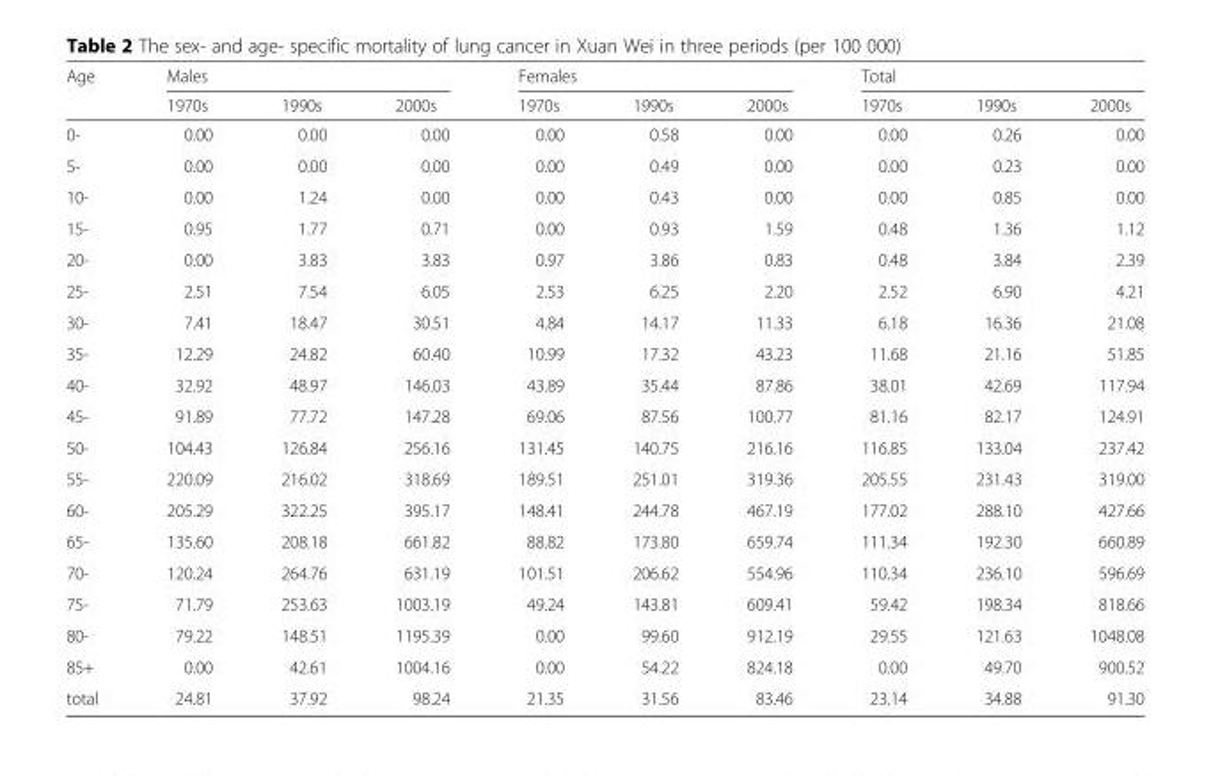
<table><thead><tr><td rowspan="2">Age</td><td colspan="3">Males</td><td colspan="3">Females</td><td colspan="3">Total</td></tr><tr><td>1970s</td><td>1990s</td><td>2000s</td><td>1970s</td><td>1990s</td><td>2000s</td><td>1970s</td><td>1990s</td><td>2000s</td></tr></thead><tbody><tr><td>0-</td><td>0.00</td><td>0.00</td><td>0.00</td><td>0.00</td><td>0.58</td><td>0.00</td><td>0.00</td><td>0.26</td><td>0.00</td></tr><tr><td>5-</td><td>0.00</td><td>0.00</td><td>0.00</td><td>0.00</td><td>0.49</td><td>0.00</td><td>0.00</td><td>0.23</td><td>0.00</td></tr><tr><td>10-</td><td>0.00</td><td>1.24</td><td>0.00</td><td>0.00</td><td>0.43</td><td>0.00</td><td>0.00</td><td>0.85</td><td>0.00</td></tr><tr><td>15-</td><td>0.95</td><td>1.77</td><td>0.71</td><td>0.00</td><td>0.93</td><td>1.59</td><td>0.48</td><td>1.36</td><td>1.12</td></tr><tr><td>20-</td><td>0.00</td><td>3.83</td><td>3.83</td><td>0.97</td><td>3.86</td><td>0.83</td><td>0.48</td><td>3.84</td><td>2.39</td></tr><tr><td>25-</td><td>2.51</td><td>7.54</td><td>6.05</td><td>2.53</td><td>6.25</td><td>2.20</td><td>2.52</td><td>6.90</td><td>4.21</td></tr><tr><td>30-</td><td>7.41</td><td>18.47</td><td>30.51</td><td>4.84</td><td>14.17</td><td>11.33</td><td>6.18</td><td>16.36</td><td>21.08</td></tr><tr><td>35-</td><td>12.29</td><td>24.82</td><td>60.40</td><td>10.99</td><td>17.32</td><td>43.23</td><td>11.68</td><td>21.16</td><td>51.85</td></tr><tr><td>40-</td><td>32.92</td><td>48.97</td><td>146.03</td><td>43.89</td><td>35.44</td><td>87.86</td><td>38.01</td><td>42.69</td><td>117.94</td></tr><tr><td>45-</td><td>91.89</td><td>77.72</td><td>147.28</td><td>69.06</td><td>87.56</td><td>100.77</td><td>81.16</td><td>82.17</td><td>124.91</td></tr><tr><td>50-</td><td>104.43</td><td>126.84</td><td>256.16</td><td>131.45</td><td>140.75</td><td>216.16</td><td>116.85</td><td>133.04</td><td>237.42</td></tr><tr><td>55-</td><td>220.09</td><td>216.02</td><td>318.69</td><td>189.51</td><td>251.01</td><td>319.36</td><td>205.55</td><td>231.43</td><td>319.00</td></tr><tr><td>60-</td><td>205.29</td><td>322.25</td><td>395.17</td><td>148.41</td><td>244.78</td><td>467.19</td><td>177.02</td><td>288.10</td><td>427.66</td></tr><tr><td>65-</td><td>135.60</td><td>208.18</td><td>661.82</td><td>88.82</td><td>173.80</td><td>659.74</td><td>111.34</td><td>192.30</td><td>660.89</td></tr><tr><td>70-</td><td>120.24</td><td>264.76</td><td>631.19</td><td>101.51</td><td>206.62</td><td>554.96</td><td>110.34</td><td>236.10</td><td>596.69</td></tr><tr><td>75-</td><td>71.79</td><td>253.63</td><td>1003.19</td><td>49.24</td><td>143.81</td><td>609.41</td><td>59.42</td><td>198.34</td><td>818.66</td></tr><tr><td>80-</td><td>79.22</td><td>148.51</td><td>1195.39</td><td>0.00</td><td>99.60</td><td>912.19</td><td>29.55</td><td>121.63</td><td>1048.08</td></tr><tr><td>85+</td><td>0.00</td><td>42.61</td><td>1004.16</td><td>0.00</td><td>54.22</td><td>824.18</td><td>0.00</td><td>49.70</td><td>900.52</td></tr><tr><td>total</td><td>24.81</td><td>37.92</td><td>98.24</td><td>21.35</td><td>31.56</td><td>83.46</td><td>23.14</td><td>34.88</td><td>91.30</td></tr></tbody></table>